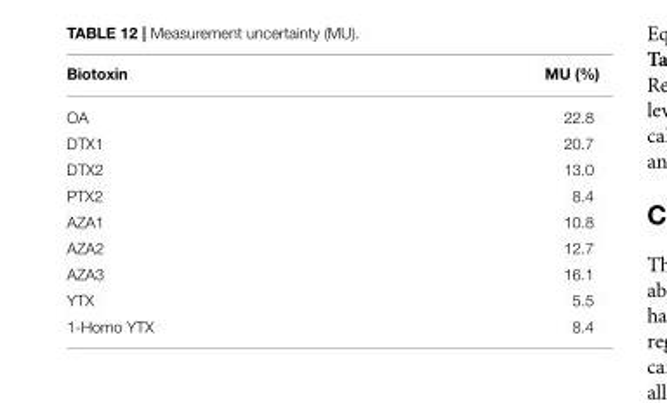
<table><thead><tr><td>Biotoxin</td><td>MU (%)</td></tr></thead><tbody><tr><td>OA</td><td>22.8</td></tr><tr><td>DTX1</td><td>20.7</td></tr><tr><td>DTX2</td><td>13.0</td></tr><tr><td>PTX2</td><td>8.4</td></tr><tr><td>AZA1</td><td>10.8</td></tr><tr><td>AZA2</td><td>12.7</td></tr><tr><td>AZA3</td><td>16.1</td></tr><tr><td>YTX</td><td>5.5</td></tr><tr><td>1-Homo YTX</td><td>8.4</td></tr></tbody></table>